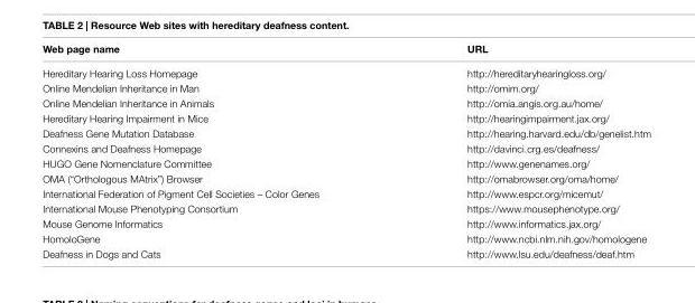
<table><thead><tr><td>web page name</td><td>URL</td></tr></thead><tbody><tr><td>Hereditary Hearing Loss Homepage</td><td>http://hereditaryhearingloss.org/</td></tr><tr><td>Online Mendelian Inheritance in Man</td><td>http://omim.org/</td></tr><tr><td>Online Mendelian Inheritance in Animals</td><td>http://omia.angis.org.au/home/</td></tr><tr><td>Hereditary Hearing Impairment in Mice</td><td>http://hearingimpairment.jax.org/</td></tr><tr><td>Deafness Gene Mutation Database</td><td>http://hearing.harvard.edu/db/genelist.htm</td></tr><tr><td>Connexins and Deafness Homepage</td><td>http://davinci.crg.es/deafness/</td></tr><tr><td>HUGO Gene Nomenclature Committee</td><td>http://www.genenames.org/</td></tr><tr><td>OMA (“Orthologous MAtrix”) Browser</td><td>http://omabrowser.org/oma/home/</td></tr><tr><td>International Federation of Pigment Cell Societies – Color Genes</td><td>http://www.espcr.org/micemut/</td></tr><tr><td>International Mouse Phenotyping Consortium</td><td>https://www.mousephenotype.org/</td></tr><tr><td>Mouse Genome Informatics</td><td>http://www.informatics.jax.org/</td></tr><tr><td>HomoloGene</td><td>http://www.ncbi.nlm.nih.gov/homologene</td></tr><tr><td>Deafness in Dogs and Cats</td><td>http://www.lsu.edu/deafness/deaf.htm</td></tr></tbody></table>